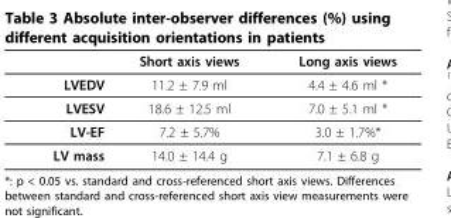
<table><thead><tr><td></td><td>Short axis views</td><td>Long axis views</td></tr></thead><tbody><tr><td>LVEDV</td><td>11.2 ± 7.9 ml</td><td>4.4 ± 4.6 ml *</td></tr><tr><td>LVESV</td><td>18.6 ± 12.5 ml</td><td>7.0 ± 5.1 ml *</td></tr><tr><td>LV-EF</td><td>7.2 ± 5.7%</td><td>3.0 ± 1.7%*</td></tr><tr><td>LV mass</td><td>14.0 ± 14.4 g</td><td>7.1 ± 6.8 g</td></tr></tbody></table>